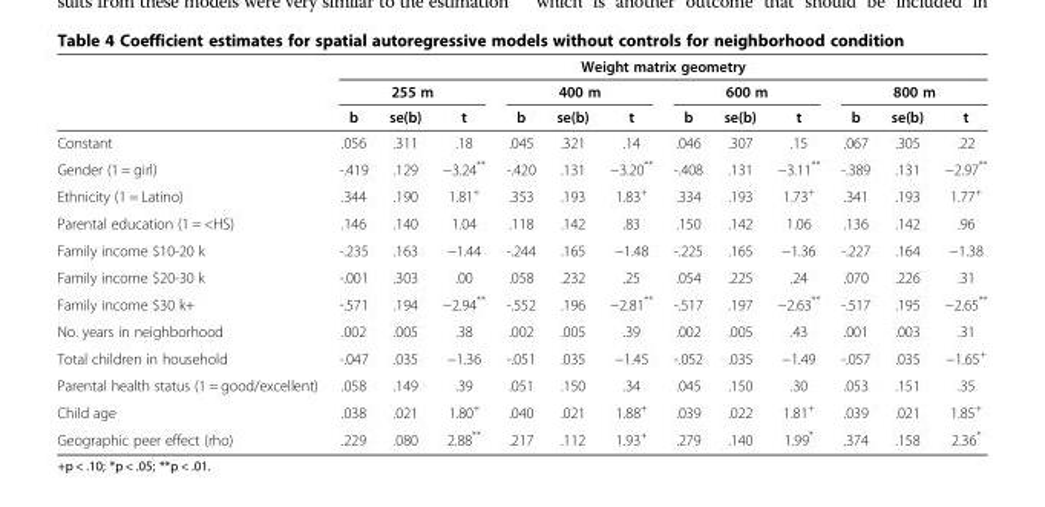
<table><thead><tr><td rowspan="3"></td><td colspan="12">Weight matrix geometry</td></tr><tr><td colspan="3">255 m</td><td colspan="3">400 m</td><td colspan="3">600 m</td><td colspan="3">800 m</td></tr><tr><td>b</td><td>se(b)</td><td>t</td><td>b</td><td>se(b)</td><td>t</td><td>b</td><td>se(b)</td><td>t</td><td>b</td><td>se(b)</td><td>t</td></tr></thead><tbody><tr><td>Constant</td><td>.056</td><td>.311</td><td>.18</td><td>.045</td><td>.321</td><td>.14</td><td>.046</td><td>.307</td><td>.15</td><td>.067</td><td>.305</td><td>.22</td></tr><tr><td>Gender (1 = girl)</td><td>-.419</td><td>.129</td><td>−3.24**</td><td>-.420</td><td>.131</td><td>−3.20**</td><td>-.408</td><td>.131</td><td>−3.11**</td><td>-.389</td><td>.131</td><td>−2.97**</td></tr><tr><td>Ethnicity (1 = Latino)</td><td>.344</td><td>.190</td><td>1.81<sup>+</sup></td><td>.353</td><td>.193</td><td>1.83<sup>+</sup></td><td>.334</td><td>.193</td><td>1.73<sup>+</sup></td><td>.341</td><td>.193</td><td>1.77<sup>+</sup></td></tr><tr><td>Parental education (1 = &lt;HS)</td><td>.146</td><td>.140</td><td>1.04</td><td>.118</td><td>.142</td><td>.83</td><td>.150</td><td>.142</td><td>1.06</td><td>.136</td><td>.142</td><td>.96</td></tr><tr><td>Family income $10-20 k</td><td>-.235</td><td>.163</td><td>−1.44</td><td>-.244</td><td>.165</td><td>−1.48</td><td>-.225</td><td>.165</td><td>−1.36</td><td>-.227</td><td>.164</td><td>−1.38</td></tr><tr><td>Family income $20-30 k</td><td>-.001</td><td>.303</td><td>.00</td><td>.058</td><td>.232</td><td>.25</td><td>.054</td><td>.225</td><td>.24</td><td>.070</td><td>.226</td><td>.31</td></tr><tr><td>Family income $30 k+</td><td>-.571</td><td>.194</td><td>−2.94**</td><td>-.552</td><td>.196</td><td>−2.81**</td><td>-.517</td><td>.197</td><td>−2.63**</td><td>-.517</td><td>.195</td><td>−2.65**</td></tr><tr><td>No. years in neighborhood</td><td>.002</td><td>.005</td><td>.38</td><td>.002</td><td>.005</td><td>.39</td><td>.002</td><td>.005</td><td>.43</td><td>.001</td><td>.003</td><td>.31</td></tr><tr><td>Total children in household</td><td>-.047</td><td>.035</td><td>−1.36</td><td>-.051</td><td>.035</td><td>−1.45</td><td>-.052</td><td>.035</td><td>−1.49</td><td>-.057</td><td>.035</td><td>−1.65<sup>+</sup></td></tr><tr><td>Parental health status (1 = good/excellent)</td><td>.058</td><td>.149</td><td>.39</td><td>.051</td><td>.150</td><td>.34</td><td>.045</td><td>.150</td><td>.30</td><td>.053</td><td>.151</td><td>.35</td></tr><tr><td>Child age</td><td>.038</td><td>.021</td><td>1.80<sup>+</sup></td><td>.040</td><td>.021</td><td>1.88<sup>+</sup></td><td>.039</td><td>.022</td><td>1.81<sup>+</sup></td><td>.039</td><td>.021</td><td>1.85<sup>+</sup></td></tr><tr><td>Geographic peer effect (rho)</td><td>.229</td><td>.080</td><td>2.88**</td><td>.217</td><td>.112</td><td>1.93<sup>+</sup></td><td>.279</td><td>.140</td><td>1.99*</td><td>.374</td><td>.158</td><td>2.36*</td></tr></tbody></table>